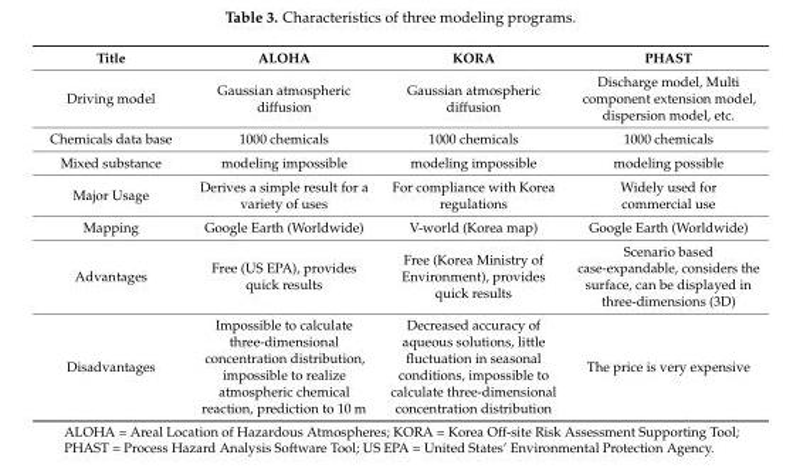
<table><thead><tr><td>Title</td><td>ALOHA</td><td>KORA</td><td>PHAST</td></tr></thead><tbody><tr><td>Driving model</td><td>Gaussian atmospheric diffusion</td><td>Gaussian atmospheric diffusion</td><td>Discharge model, Multi component extension model, dispersion model, etc.</td></tr><tr><td>Chemicals data base</td><td>1000 chemicals</td><td>1000 chemicals</td><td>1000 chemicals</td></tr><tr><td>Mixed substance</td><td>modeling impossible</td><td>modeling impossible</td><td>modeling possible</td></tr><tr><td>Major Usage</td><td>Derives a simple result for a variety of uses</td><td>For compliance with Korea regulations</td><td>Widely used for commercial use</td></tr><tr><td>Mapping</td><td>Google Earth (Worldwide)</td><td>V-world (Korea map)</td><td>Google Earth (Worldwide)</td></tr><tr><td>Advantages</td><td>Free (US EPA), provides quick results</td><td>Free (Korea Ministry of Environment), provides quick results</td><td>Scenario based case-expandable, considers the surface, can be displayed in three-dimensions (3D)</td></tr><tr><td>Disadvantages</td><td>Impossible to calculate three-dimensional concentration distribution, impossible to realize atmospheric chemical reaction, prediction to 10 m</td><td>Decreased accuracy of aqueous solutions, little fluctuation in seasonal conditions, impossible to calculate three-dimensional concentration distribution</td><td>The price is very expensive</td></tr></tbody></table>